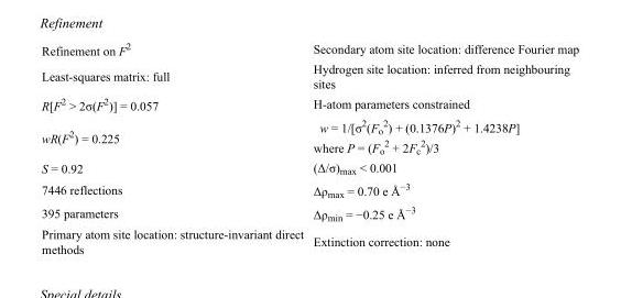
<table><tbody><tr><td>Refinement on F<sup>2</sup></td><td>Secondary atom site location: difference Fourier map</td></tr><tr><td>Least-squares matrix: full</td><td>Hydrogen site location: inferred from neighbouring sites</td></tr><tr><td>R[F<sup>2</sup> &gt; 2σ(F<sup>2</sup>)] = 0.057</td><td>H-atom parameters constrained</td></tr><tr><td>wR(F<sup>2</sup>) = 0.225</td><td>w = 1/[σ<sup>2</sup>(F<sub>o</sub> <sup>2</sup>) + (0.1376P)<sup>2</sup> + 1.4238P] where P = (F<sub>o</sub> <sup>2</sup> + 2F<sub>c</sub> <sup>2</sup>)/3</td></tr><tr><td>S = 0.92</td><td>(Δ/σ)<sub>max</sub> &lt; 0.001</td></tr><tr><td>7446 reflections</td><td>Δρ<sub>max</sub> = 0.70 e Å<sup>−3</sup></td></tr><tr><td>395 parameters</td><td>Δρ<sub>min</sub> = −0.25 e Å<sup>−3</sup></td></tr><tr><td>Primary atom site location: structure-invariant direct methods</td><td>Extinction correction: none</td></tr></tbody></table>